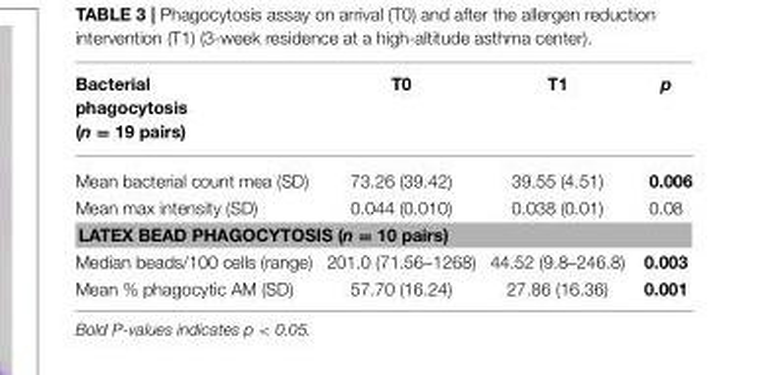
<table><thead><tr><td>Bacterial phagocytosis (n = 19 pairs)</td><td>T0</td><td>T1</td><td>p</td></tr></thead><tbody><tr><td>Mean bacterial count mea (SD)</td><td>73.26 (39.42)</td><td>39.55 (4.51)</td><td>0.006</td></tr><tr><td>Mean max intensity (SD)</td><td>0.044 (0.010)</td><td>0.038 (0.01)</td><td>0.08</td></tr><tr><td colspan="4">LATEX BEAD PHAGOCYTOSIS (n = 10 pairs)</td></tr><tr><td>Median beads/100 cells (range)</td><td>201.0 (71.56–1268)</td><td>44.52 (9.8–246.8)</td><td>0.003</td></tr><tr><td>Mean % phagocytic AM (SD)</td><td>57.70 (16.24)</td><td>27.86 (16.36)</td><td>0.001</td></tr></tbody></table>